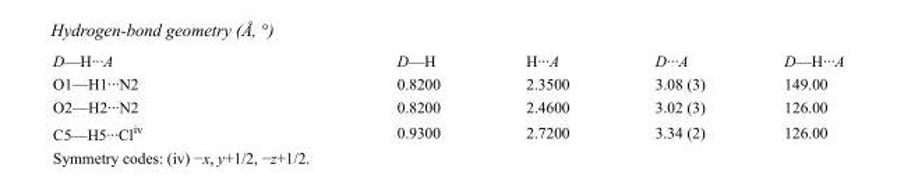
<table><tbody><tr><td>D—H···A</td><td>D—H</td><td>H···A</td><td>D···A</td><td>D—H···A</td></tr><tr><td>O1—H1···N2</td><td>0.8200</td><td>2.3500</td><td>3.08 (3)</td><td>149.00</td></tr><tr><td>O2—H2···N2</td><td>0.8200</td><td>2.4600</td><td>3.02 (3)</td><td>126.00</td></tr><tr><td>C5—H5···Cl<sup>iv</sup></td><td>0.9300</td><td>2.7200</td><td>3.34 (2)</td><td>126.00</td></tr></tbody></table>